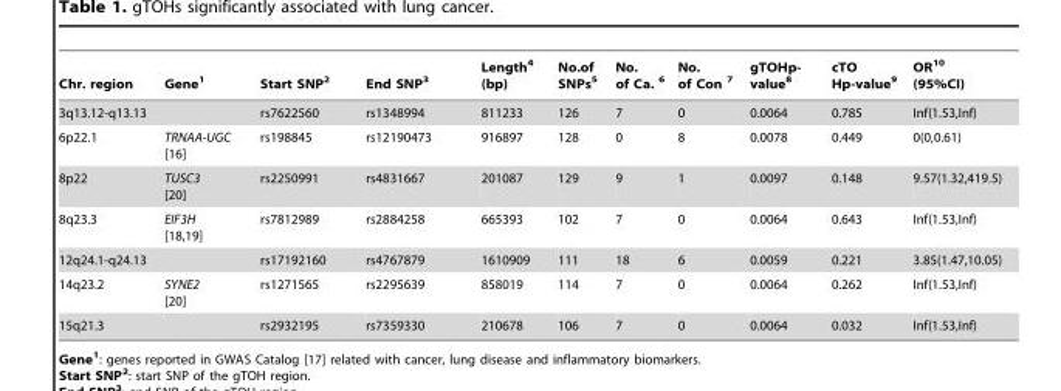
<table><thead><tr><td>Chr. region</td><td>Gene<sup>1</sup></td><td>Start SNP<sup>2</sup></td><td>End SNP<sup>3</sup></td><td>Length<sup>4</sup> (bp)</td><td>No.of SNPs<sup>5</sup></td><td>No. of Ca. <sup>6</sup></td><td>No. of Con <sup>7</sup></td><td>gTOHp- value<sup>8</sup></td><td>cTO Hp-value<sup>9</sup></td><td>OR<sup>10</sup> (95%CI)</td></tr></thead><tbody><tr><td>3q13.12-q13.13</td><td></td><td>rs7622560</td><td>rs1348994</td><td>811233</td><td>126</td><td>7</td><td>0</td><td>0.0064</td><td>0.785</td><td>Inf(1.53,Inf)</td></tr><tr><td>6p22.1</td><td>TRNAA-UGC [16]</td><td>rs198845</td><td>rs12190473</td><td>916897</td><td>128</td><td>0</td><td>8</td><td>0.0078</td><td>0.449</td><td>0(0,0.61)</td></tr><tr><td>8p22</td><td>TUSC3 [20]</td><td>rs2250991</td><td>rs4831667</td><td>201087</td><td>129</td><td>9</td><td>1</td><td>0.0097</td><td>0.148</td><td>9.57(1.32,419.5)</td></tr><tr><td>8q23.3</td><td>EIF3H [18,19]</td><td>rs7812989</td><td>rs2884258</td><td>665393</td><td>102</td><td>7</td><td>0</td><td>0.0064</td><td>0.643</td><td>Inf(1.53,Inf)</td></tr><tr><td>12q24.1-q24.13</td><td></td><td>rs17192160</td><td>rs4767879</td><td>1610909</td><td>111</td><td>18</td><td>6</td><td>0.0059</td><td>0.221</td><td>3.85(1.47,10.05)</td></tr><tr><td>14q23.2</td><td>SYNE2 [20]</td><td>rs1271565</td><td>rs2295639</td><td>858019</td><td>114</td><td>7</td><td>0</td><td>0.0064</td><td>0.262</td><td>Inf(1.53,Inf)</td></tr><tr><td>15q21.3</td><td></td><td>rs2932195</td><td>rs7359330</td><td>210678</td><td>106</td><td>7</td><td>0</td><td>0.0064</td><td>0.032</td><td>Inf(1.53,Inf)</td></tr></tbody></table>